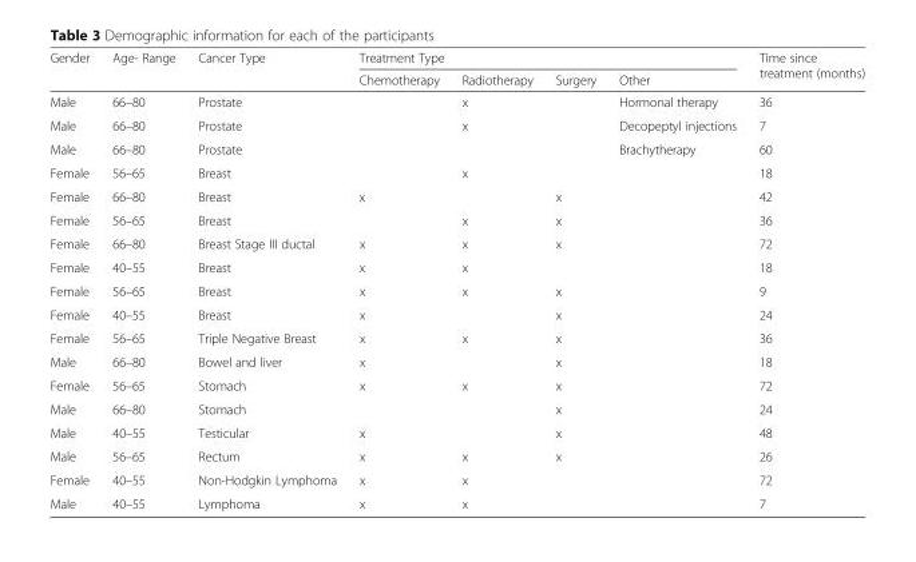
<table><thead><tr><td rowspan="2">Gender</td><td rowspan="2">Age- Range</td><td rowspan="2">Cancer Type</td><td colspan="4">Treatment Type</td><td rowspan="2">Time since treatment (months)</td></tr><tr><td>Chemotherapy</td><td>Radiotherapy</td><td>Surgery</td><td>Other</td></tr></thead><tbody><tr><td>Male</td><td>66–80</td><td>Prostate</td><td></td><td>x</td><td></td><td>Hormonal therapy</td><td>36</td></tr><tr><td>Male</td><td>66–80</td><td>Prostate</td><td></td><td>x</td><td></td><td>Decopeptyl injections</td><td>7</td></tr><tr><td>Male</td><td>66–80</td><td>Prostate</td><td></td><td></td><td></td><td>Brachytherapy</td><td>60</td></tr><tr><td>Female</td><td>56–65</td><td>Breast</td><td></td><td>x</td><td></td><td></td><td>18</td></tr><tr><td>Female</td><td>66–80</td><td>Breast</td><td>x</td><td></td><td>x</td><td></td><td>42</td></tr><tr><td>Female</td><td>56–65</td><td>Breast</td><td></td><td>x</td><td>x</td><td></td><td>36</td></tr><tr><td>Female</td><td>66–80</td><td>Breast Stage III ductal</td><td>x</td><td>x</td><td>x</td><td></td><td>72</td></tr><tr><td>Female</td><td>40–55</td><td>Breast</td><td>x</td><td>x</td><td></td><td></td><td>18</td></tr><tr><td>Female</td><td>56–65</td><td>Breast</td><td>x</td><td>x</td><td>x</td><td></td><td>9</td></tr><tr><td>Female</td><td>40–55</td><td>Breast</td><td>x</td><td></td><td>x</td><td></td><td>24</td></tr><tr><td>Female</td><td>56–65</td><td>Triple Negative Breast</td><td>x</td><td>x</td><td>x</td><td></td><td>36</td></tr><tr><td>Male</td><td>66–80</td><td>Bowel and liver</td><td>x</td><td></td><td>x</td><td></td><td>18</td></tr><tr><td>Female</td><td>56–65</td><td>Stomach</td><td>x</td><td>x</td><td>x</td><td></td><td>72</td></tr><tr><td>Male</td><td>66–80</td><td>Stomach</td><td></td><td></td><td>x</td><td></td><td>24</td></tr><tr><td>Male</td><td>40–55</td><td>Testicular</td><td>x</td><td></td><td>x</td><td></td><td>48</td></tr><tr><td>Male</td><td>56–65</td><td>Rectum</td><td>x</td><td>x</td><td>x</td><td></td><td>26</td></tr><tr><td>Female</td><td>40–55</td><td>Non-Hodgkin Lymphoma</td><td>x</td><td>x</td><td></td><td></td><td>72</td></tr><tr><td>Male</td><td>40–55</td><td>Lymphoma</td><td>x</td><td>x</td><td></td><td></td><td>7</td></tr></tbody></table>